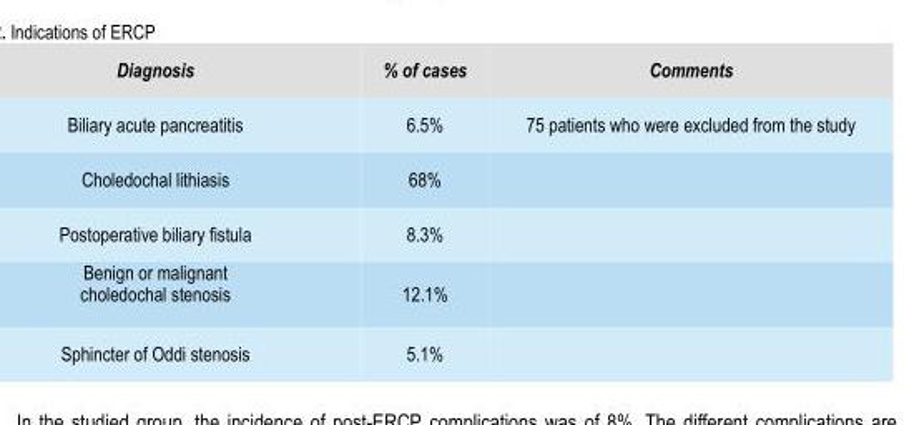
<table><thead><tr><td rowspan="6">Diagnosis Biliary acute pancreatitis Choledochal lithiasis Postoperative biliary fistula Benign or malignant choledochal stenosis Sphincter of Oddi stenosis</td><td rowspan="6">% of cases 6.5% 68% 8.3% 12.1% 5.1%</td><td rowspan="6">Comments 75 patients who were excluded from the study</td></tr><tr></tr><tr></tr><tr></tr><tr></tr><tr></tr></thead><tbody></tbody></table>